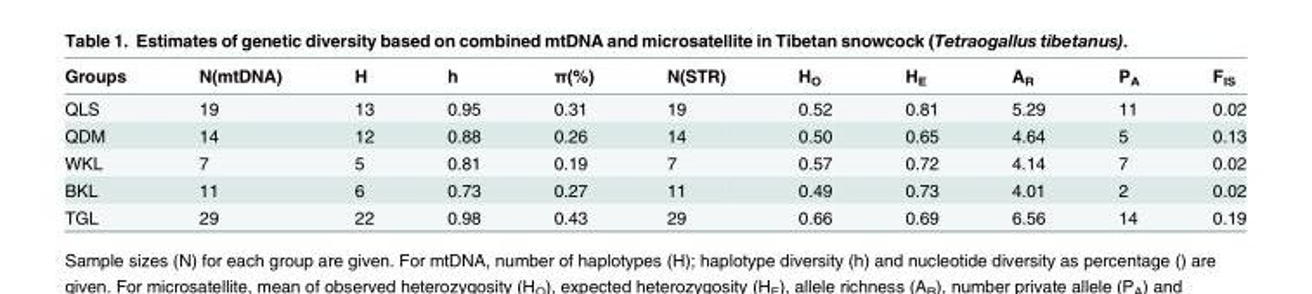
<table><thead><tr><td>Groups</td><td>N(mtDNA)</td><td>H</td><td>h</td><td>π(%)</td><td>N(STR)</td><td>H<sub>O</sub></td><td>H<sub>E</sub></td><td>A<sub>R</sub></td><td>P<sub>A</sub></td><td>F<sub>IS</sub></td></tr></thead><tbody><tr><td>QLS</td><td>19</td><td>13</td><td>0.95</td><td>0.31</td><td>19</td><td>0.52</td><td>0.81</td><td>5.29</td><td>11</td><td>0.02</td></tr><tr><td>QDM</td><td>14</td><td>12</td><td>0.88</td><td>0.26</td><td>14</td><td>0.50</td><td>0.65</td><td>4.64</td><td>5</td><td>0.13</td></tr><tr><td>WKL</td><td>7</td><td>5</td><td>0.81</td><td>0.19</td><td>7</td><td>0.57</td><td>0.72</td><td>4.14</td><td>7</td><td>0.02</td></tr><tr><td>BKL</td><td>11</td><td>6</td><td>0.73</td><td>0.27</td><td>11</td><td>0.49</td><td>0.73</td><td>4.01</td><td>2</td><td>0.02</td></tr><tr><td>TGL</td><td>29</td><td>22</td><td>0.98</td><td>0.43</td><td>29</td><td>0.66</td><td>0.69</td><td>6.56</td><td>14</td><td>0.19</td></tr></tbody></table>